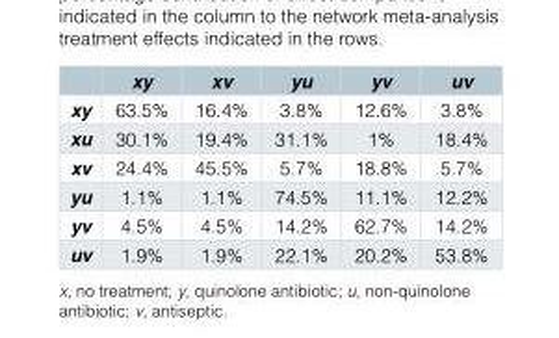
<table><thead><tr><td></td><td>xy</td><td>xv</td><td>yu</td><td>yv</td><td>uv</td></tr></thead><tbody><tr><td>xy</td><td>63.5%</td><td>16.4%</td><td>3.8%</td><td>12.6%</td><td>3.8%</td></tr><tr><td>xu</td><td>30.1%</td><td>19.4%</td><td>31.1%</td><td>1%</td><td>18.4%</td></tr><tr><td>xv</td><td>24.4%</td><td>45.5%</td><td>5.7%</td><td>18.8%</td><td>5.7%</td></tr><tr><td>yu</td><td>1.1%</td><td>1.1%</td><td>74.5%</td><td>11.1%</td><td>12.2%</td></tr><tr><td>yv</td><td>4.5%</td><td>4.5%</td><td>14.2%</td><td>62.7%</td><td>14.2%</td></tr><tr><td>uv</td><td>1.9%</td><td>1.9%</td><td>22.1%</td><td>20.2%</td><td>53.8%</td></tr></tbody></table>